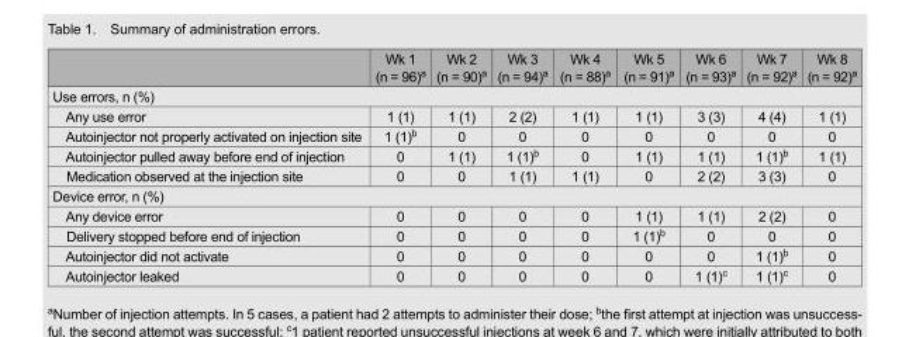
<table><thead><tr><td></td><td>Wk 1 (n = 96)<sup>a</sup></td><td>Wk 2 (n = 90)<sup>a</sup></td><td>Wk 3 (n = 94)<sup>a</sup></td><td>Wk 4 (n = 88)<sup>a</sup></td><td>Wk 5 (n = 91)<sup>a</sup></td><td>Wk 6 (n = 93)<sup>a</sup></td><td>Wk 7 (n = 92)<sup>a</sup></td><td>Wk 8 (n = 92)<sup>a</sup></td></tr></thead><tbody><tr><td colspan="9">Use errors, n (%)</td></tr><tr><td>Any use error</td><td>1 (1)</td><td>1 (1)</td><td>2 (2)</td><td>1 (1)</td><td>1 (1)</td><td>3 (3)</td><td>4 (4)</td><td>1 (1)</td></tr><tr><td>Autoinjector not properly activated on injection site</td><td>1 (1)<sup>b</sup></td><td>0</td><td>0</td><td>0</td><td>0</td><td>0</td><td>0</td><td>0</td></tr><tr><td>Autoinjector pulled away before end of injection</td><td>0</td><td>1 (1)</td><td>1 (1)<sup>b</sup></td><td>0</td><td>1 (1)</td><td>1 (1)</td><td>1 (1)<sup>b</sup></td><td>1 (1)</td></tr><tr><td>Medication observed at the injection site</td><td>0</td><td>0</td><td>1 (1)</td><td>1 (1)</td><td>0</td><td>2 (2)</td><td>3 (3)</td><td>0</td></tr><tr><td colspan="9">Device error, n (%)</td></tr><tr><td>Any device error</td><td>0</td><td>0</td><td>0</td><td>0</td><td>1 (1)</td><td>1 (1)</td><td>2 (2)</td><td>0</td></tr><tr><td>Delivery stopped before end of injection</td><td>0</td><td>0</td><td>0</td><td>0</td><td>1 (1)<sup>b</sup></td><td>0</td><td>0</td><td>0</td></tr><tr><td>Autoinjector did not activate</td><td>0</td><td>0</td><td>0</td><td>0</td><td>0</td><td>0</td><td>1 (1)<sup>b</sup></td><td>0</td></tr><tr><td>Autoinjector leaked</td><td>0</td><td>0</td><td>0</td><td>0</td><td>0</td><td>1 (1)<sup>c</sup></td><td>1 (1)<sup>c</sup></td><td>0</td></tr></tbody></table>